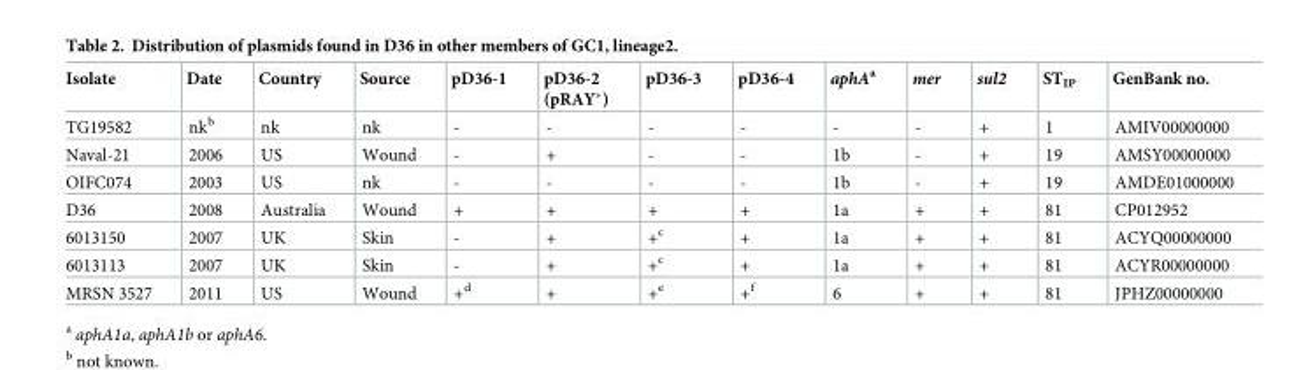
<table><thead><tr><td>Isolate</td><td>Date</td><td>Country</td><td>Source</td><td>pD36-1</td><td>pD36-2 (pRAY*)</td><td>pD36-3</td><td>pD36-4</td><td>aphA<sup>a</sup></td><td>mer</td><td>sul2</td><td>ST<sub>IP</sub></td><td>GenBank no.</td></tr></thead><tbody><tr><td>TG19582</td><td>nk<sup>b</sup></td><td>nk</td><td>nk</td><td>-</td><td>-</td><td>-</td><td>-</td><td>-</td><td>-</td><td>+</td><td>1</td><td>AMIV00000000</td></tr><tr><td>Naval-21</td><td>2006</td><td>US</td><td>Wound</td><td>-</td><td>+</td><td>-</td><td>-</td><td>1b</td><td>-</td><td>+</td><td>19</td><td>AMSY00000000</td></tr><tr><td>OIFC074</td><td>2003</td><td>US</td><td>nk</td><td>-</td><td>-</td><td>-</td><td>-</td><td>1b</td><td>-</td><td>+</td><td>19</td><td>AMDE01000000</td></tr><tr><td>D36</td><td>2008</td><td>Australia</td><td>Wound</td><td>+</td><td>+</td><td>+</td><td>+</td><td>1a</td><td>+</td><td>+</td><td>81</td><td>CP012952</td></tr><tr><td>6013150</td><td>2007</td><td>UK</td><td>Skin</td><td>-</td><td>+</td><td>+<sup>c</sup></td><td>+</td><td>1a</td><td>+</td><td>+</td><td>81</td><td>ACYQ00000000</td></tr><tr><td>6013113</td><td>2007</td><td>UK</td><td>Skin</td><td>-</td><td>+</td><td>+<sup>c</sup></td><td>+</td><td>1a</td><td>+</td><td>+</td><td>81</td><td>ACYR00000000</td></tr><tr><td>MRSN 3527</td><td>2011</td><td>US</td><td>Wound</td><td>+<sup>d</sup></td><td>+</td><td>+<sup>e</sup></td><td>+<sup>f</sup></td><td>6</td><td>+</td><td>+</td><td>81</td><td>JPHZ00000000</td></tr></tbody></table>